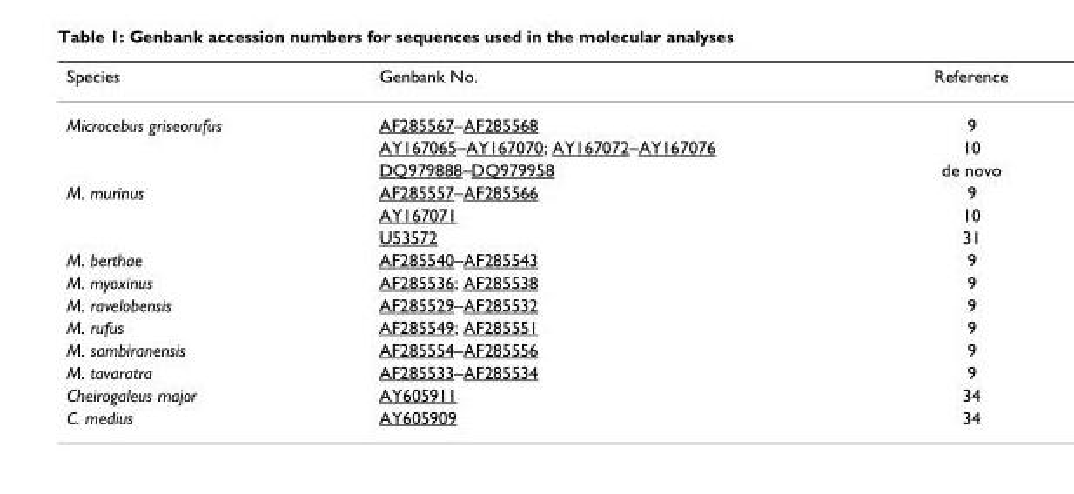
<table><thead><tr><td>Species</td><td>Genbank No.</td><td>Reference</td></tr></thead><tbody><tr><td rowspan="3">Microcebus griseorufus</td><td>AF285567–AF285568</td><td>9</td></tr><tr><td>AY167065–AY167070; AY167072–AY167076</td><td>10</td></tr><tr><td>DQ979888–DQ979958</td><td>de novo</td></tr><tr><td rowspan="3">M. murinus</td><td>AF285557–AF285566</td><td>9</td></tr><tr><td>AY167071</td><td>10</td></tr><tr><td>U53572</td><td>31</td></tr><tr><td>M. berthae</td><td>AF285540–AF285543</td><td>9</td></tr><tr><td>M. myoxinus</td><td>AF285536; AF285538</td><td>9</td></tr><tr><td>M. ravelobensis</td><td>AF285529–AF285532</td><td>9</td></tr><tr><td>M. rufus</td><td>AF285549; AF285551</td><td>9</td></tr><tr><td>M. sambiranensis</td><td>AF285554–AF285556</td><td>9</td></tr><tr><td>M. tavaratra</td><td>AF285533–AF285534</td><td>9</td></tr><tr><td>Cheirogaleus major</td><td>AY605911</td><td>34</td></tr><tr><td>C. medius</td><td>AY605909</td><td>34</td></tr></tbody></table>